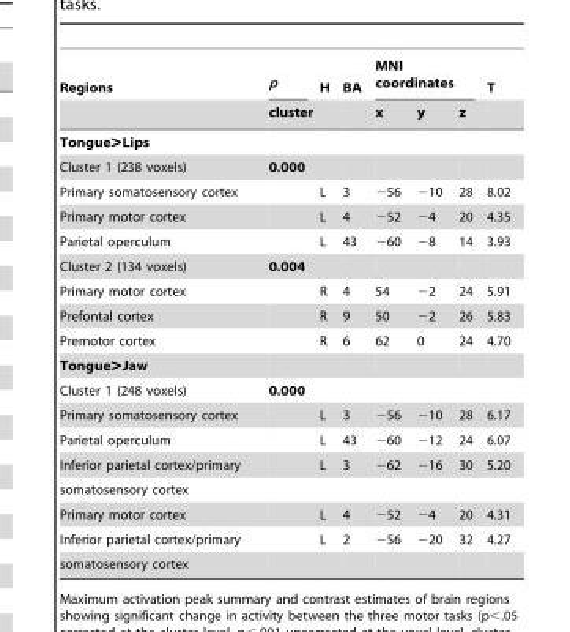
<table><thead><tr><td rowspan="2">Regions</td><td rowspan="2">p cluster</td><td rowspan="2">H</td><td rowspan="2">BA</td><td colspan="3">MNI coordinates</td><td rowspan="2">T</td></tr><tr><td>x</td><td>y</td><td>z</td></tr></thead><tbody><tr><td colspan="8">Tongue&gt;Lips</td></tr><tr><td>Cluster 1 (238 voxels)</td><td>0.000</td><td></td><td></td><td></td><td></td><td></td><td></td></tr><tr><td>Primary somatosensory cortex</td><td></td><td>L</td><td>3</td><td>−56</td><td>−10</td><td>28</td><td>8.02</td></tr><tr><td>Primary motor cortex</td><td></td><td>L</td><td>4</td><td>−52</td><td>−4</td><td>20</td><td>4.35</td></tr><tr><td>Parietal operculum</td><td></td><td>L</td><td>43</td><td>−60</td><td>−8</td><td>14</td><td>3.93</td></tr><tr><td>Cluster 2 (134 voxels)</td><td>0.004</td><td></td><td></td><td></td><td></td><td></td><td></td></tr><tr><td>Primary motor cortex</td><td></td><td>R</td><td>4</td><td>54</td><td>−2</td><td>24</td><td>5.91</td></tr><tr><td>Prefontal cortex</td><td></td><td>R</td><td>9</td><td>50</td><td>−2</td><td>26</td><td>5.83</td></tr><tr><td>Premotor cortex</td><td></td><td>R</td><td>6</td><td>62</td><td>0</td><td>24</td><td>4.70</td></tr><tr><td colspan="8">Tongue&gt;Jaw</td></tr><tr><td>Cluster 1 (248 voxels)</td><td>0.000</td><td></td><td></td><td></td><td></td><td></td><td></td></tr><tr><td>Primary somatosensory cortex</td><td></td><td>L</td><td>3</td><td>−56</td><td>−10</td><td>28</td><td>6.17</td></tr><tr><td>Parietal operculum</td><td></td><td>L</td><td>43</td><td>−60</td><td>−12</td><td>24</td><td>6.07</td></tr><tr><td>Inferior parietal cortex/primary</td><td></td><td>L</td><td>3</td><td>−62</td><td>−16</td><td>30</td><td>5.20</td></tr><tr><td colspan="8">somatosensory cortex</td></tr><tr><td>Primary motor cortex</td><td></td><td>L</td><td>4</td><td>−52</td><td>−4</td><td>20</td><td>4.31</td></tr><tr><td>Inferior parietal cortex/primary</td><td></td><td>L</td><td>2</td><td>−56</td><td>−20</td><td>32</td><td>4.27</td></tr><tr><td>somatosensory cortex</td><td></td><td></td><td></td><td></td><td></td><td></td><td></td></tr></tbody></table>